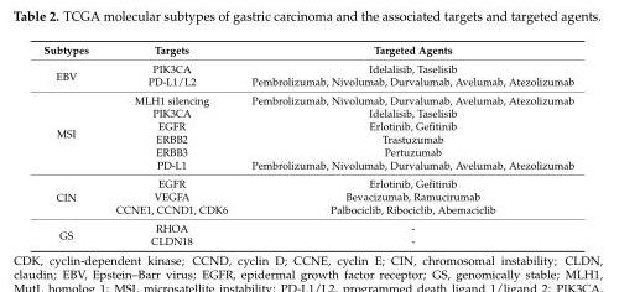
<table><thead><tr><td>Subtypes</td><td>Targets</td><td>Targeted Agents</td></tr></thead><tbody><tr><td rowspan="2">EBV</td><td>PIK3CA</td><td>Idelalisib, Taselisib</td></tr><tr><td>PD-L1/L2</td><td>Pembrolizumab, Nivolumab, Durvalumab, Avelumab, Atezolizumab</td></tr><tr><td rowspan="6">MSI</td><td>MLH1 silencing</td><td>Pembrolizumab, Nivolumab, Durvalumab, Avelumab, Atezolizumab</td></tr><tr><td>PIK3CA</td><td>Idelalisib, Taselisib</td></tr><tr><td>EGFR</td><td>Erlotinib, Gefitinib</td></tr><tr><td>ERBB2</td><td>Trastuzumab</td></tr><tr><td>ERBB3</td><td>Pertuzumab</td></tr><tr><td>PD-L1</td><td>Pembrolizumab, Nivolumab, Durvalumab, Avelumab, Atezolizumab</td></tr><tr><td rowspan="3">CIN</td><td>EGFR</td><td>Erlotinib, Gefitinib</td></tr><tr><td>VEGFA</td><td>Bevacizumab, Ramucirumab</td></tr><tr><td>CCNE1, CCND1, CDK6</td><td>Palbociclib, Ribociclib, Abemaciclib</td></tr><tr><td rowspan="2">GS</td><td>RHOA</td><td>-</td></tr><tr><td>CLDN18</td><td>-</td></tr></tbody></table>